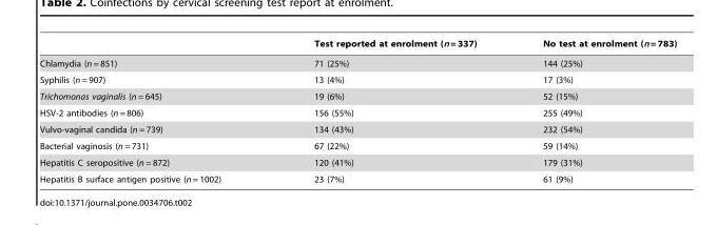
<table><thead><tr><td></td><td>Test reported at enrolment (n = 337)</td><td>No test at enrolment (n = 783)</td></tr></thead><tbody><tr><td>Chlamydia (n = 851)</td><td>71 (25%)</td><td>144 (25%)</td></tr><tr><td>Syphilis (n = 907)</td><td>13 (4%)</td><td>17 (3%)</td></tr><tr><td>Trichomonas vaginalis (n = 645)</td><td>19 (6%)</td><td>52 (15%)</td></tr><tr><td>HSV-2 antibodies (n = 806)</td><td>156 (55%)</td><td>255 (49%)</td></tr><tr><td>Vulvo-vaginal candida (n = 739)</td><td>134 (43%)</td><td>232 (54%)</td></tr><tr><td>Bacterial vaginosis (n = 731)</td><td>67 (22%)</td><td>59 (14%)</td></tr><tr><td>Hepatitis C seropositive (n = 872)</td><td>120 (41%)</td><td>179 (31%)</td></tr><tr><td>Hepatitis B surface antigen positive (n = 1002)</td><td>23 (7%)</td><td>61 (9%)</td></tr></tbody></table>